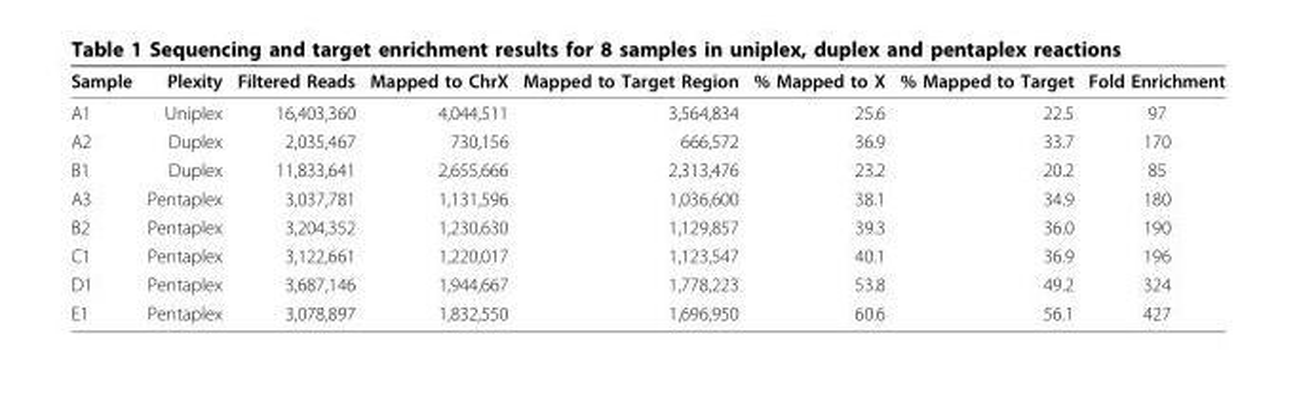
<table><thead><tr><td>Sample</td><td>Plexity</td><td>Filtered Reads</td><td>Mapped to ChrX</td><td>Mapped to Target Region</td><td>% Mapped to X</td><td>% Mapped to Target</td><td>Fold Enrichment</td></tr></thead><tbody><tr><td>A1</td><td>Uniplex</td><td>16,403,360</td><td>4,044,511</td><td>3,564,834</td><td>25.6</td><td>22.5</td><td>97</td></tr><tr><td>A2</td><td>Duplex</td><td>2,035,467</td><td>730,156</td><td>666,572</td><td>36.9</td><td>33.7</td><td>170</td></tr><tr><td>B1</td><td>Duplex</td><td>11,833,641</td><td>2,655,666</td><td>2,313,476</td><td>23.2</td><td>20.2</td><td>85</td></tr><tr><td>A3</td><td>Pentaplex</td><td>3,037,781</td><td>1,131,596</td><td>1,036,600</td><td>38.1</td><td>34.9</td><td>180</td></tr><tr><td>B2</td><td>Pentaplex</td><td>3,204,352</td><td>1,230,630</td><td>1,129,857</td><td>39.3</td><td>36.0</td><td>190</td></tr><tr><td>C1</td><td>Pentaplex</td><td>3,122,661</td><td>1,220,017</td><td>1,123,547</td><td>40.1</td><td>36.9</td><td>196</td></tr><tr><td>D1</td><td>Pentaplex</td><td>3,687,146</td><td>1,944,667</td><td>1,778,223</td><td>53.8</td><td>49.2</td><td>324</td></tr><tr><td>E1</td><td>Pentaplex</td><td>3,078,897</td><td>1,832,550</td><td>1,696,950</td><td>60.6</td><td>56.1</td><td>427</td></tr></tbody></table>